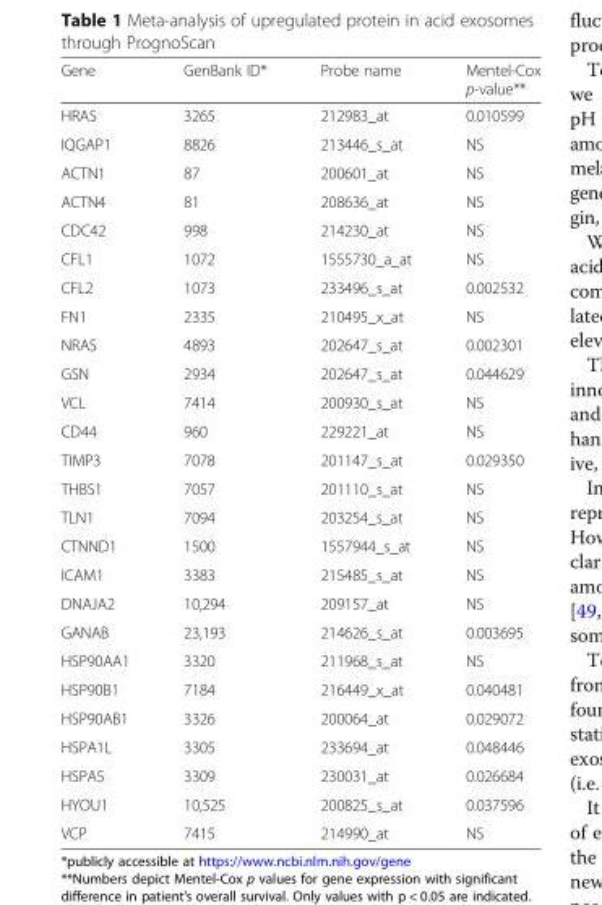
<table><thead><tr><td>Gene</td><td>GenBank ID*</td><td>Probe name</td><td>Mentel-Cox p-value**</td></tr></thead><tbody><tr><td>HRAS</td><td>3265</td><td>212983_at</td><td>0.010599</td></tr><tr><td>IQGAP1</td><td>8826</td><td>213446_s_at</td><td>NS</td></tr><tr><td>ACTN1</td><td>87</td><td>200601_at</td><td>NS</td></tr><tr><td>ACTN4</td><td>81</td><td>208636_at</td><td>NS</td></tr><tr><td>CDC42</td><td>998</td><td>214230_at</td><td>NS</td></tr><tr><td>CFL1</td><td>1072</td><td>1555730_a_at</td><td>NS</td></tr><tr><td>CFL2</td><td>1073</td><td>233496_s_at</td><td>0.002532</td></tr><tr><td>FN1</td><td>2335</td><td>210495_x_at</td><td>NS</td></tr><tr><td>NRAS</td><td>4893</td><td>202647_s_at</td><td>0.002301</td></tr><tr><td>GSN</td><td>2934</td><td>202647_s_at</td><td>0.044629</td></tr><tr><td>VCL</td><td>7414</td><td>200930_s_at</td><td>NS</td></tr><tr><td>CD44</td><td>960</td><td>229221_at</td><td>NS</td></tr><tr><td>TIMP3</td><td>7078</td><td>201147_s_at</td><td>0.029350</td></tr><tr><td>THBS1</td><td>7057</td><td>201110_s_at</td><td>NS</td></tr><tr><td>TLN1</td><td>7094</td><td>203254_s_at</td><td>NS</td></tr><tr><td>CTNND1</td><td>1500</td><td>1557944_s_at</td><td>NS</td></tr><tr><td>ICAM1</td><td>3383</td><td>215485_s_at</td><td>NS</td></tr><tr><td>DNAJA2</td><td>10,294</td><td>209157_at</td><td>NS</td></tr><tr><td>GANAB</td><td>23,193</td><td>214626_s_at</td><td>0.003695</td></tr><tr><td>HSP90AA1</td><td>3320</td><td>211968_s_at</td><td>NS</td></tr><tr><td>HSP90B1</td><td>7184</td><td>216449_x_at</td><td>0.040481</td></tr><tr><td>HSP90AB1</td><td>3326</td><td>200064_at</td><td>0.029072</td></tr><tr><td>HSPA1L</td><td>3305</td><td>233694_at</td><td>0.048446</td></tr><tr><td>HSPA5</td><td>3309</td><td>230031_at</td><td>0.026684</td></tr><tr><td>HYOU1</td><td>10,525</td><td>200825_s_at</td><td>0.037596</td></tr><tr><td>VCP</td><td>7415</td><td>214990_at</td><td>NS</td></tr></tbody></table>